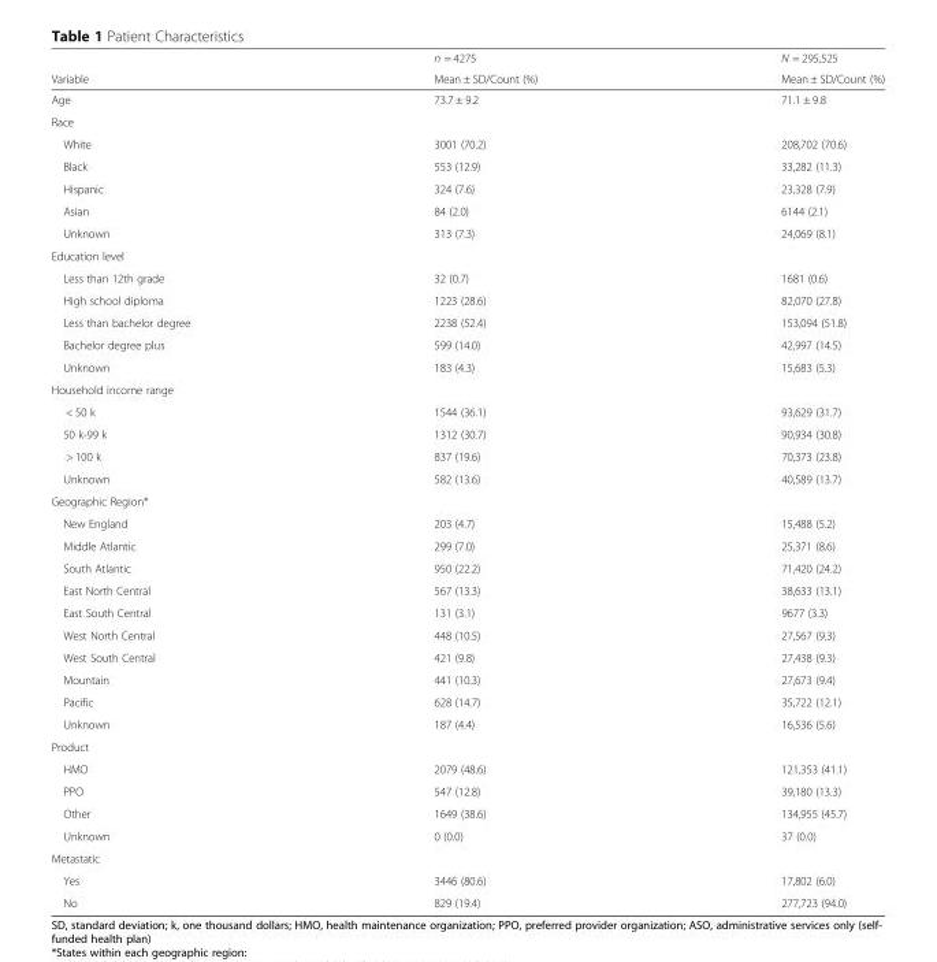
<table><thead><tr><td rowspan="2">Variable</td><td rowspan="2">n = 4275 Mean ± SD/Count (%)</td><td rowspan="2">N = 295,525 Mean ± SD/Count (%)</td></tr><tr></tr></thead><tbody><tr><td>Age</td><td>73.7 ± 9.2</td><td>71.1 ± 9.8</td></tr><tr><td colspan="3">Race</td></tr><tr><td>White</td><td>3001 (70.2)</td><td>208,702 (70.6)</td></tr><tr><td>Black</td><td>553 (12.9)</td><td>33,282 (11.3)</td></tr><tr><td>Hispanic</td><td>324 (7.6)</td><td>23,328 (7.9)</td></tr><tr><td>Asian</td><td>84 (2.0)</td><td>6144 (2.1)</td></tr><tr><td>Unknown</td><td>313 (7.3)</td><td>24,069 (8.1)</td></tr><tr><td colspan="3">Education level</td></tr><tr><td>Less than 12th grade</td><td>32 (0.7)</td><td>1681 (0.6)</td></tr><tr><td>High school diploma</td><td>1223 (28.6)</td><td>82,070 (27.8)</td></tr><tr><td>Less than bachelor degree</td><td>2238 (52.4)</td><td>153,094 (51.8)</td></tr><tr><td>Bachelor degree plus</td><td>599 (14.0)</td><td>42,997 (14.5)</td></tr><tr><td>Unknown</td><td>183 (4.3)</td><td>15,683 (5.3)</td></tr><tr><td colspan="3">Household income range</td></tr><tr><td>&lt; 50 k</td><td>1544 (36.1)</td><td>93,629 (31.7)</td></tr><tr><td>50 k-99 k</td><td>1312 (30.7)</td><td>90,934 (30.8)</td></tr><tr><td>&gt; 100 k</td><td>837 (19.6)</td><td>70,373 (23.8)</td></tr><tr><td>Unknown</td><td>582 (13.6)</td><td>40,589 (13.7)</td></tr><tr><td colspan="3">Geographic Region*</td></tr><tr><td>New England</td><td>203 (4.7)</td><td>15,488 (5.2)</td></tr><tr><td>Middle Atlantic</td><td>299 (7.0)</td><td>25,371 (8.6)</td></tr><tr><td>South Atlantic</td><td>950 (22.2)</td><td>71,420 (24.2)</td></tr><tr><td>East North Central</td><td>567 (13.3)</td><td>38,633 (13.1)</td></tr><tr><td>East South Central</td><td>131 (3.1)</td><td>9677 (3.3)</td></tr><tr><td>West North Central</td><td>448 (10.5)</td><td>27,567 (9.3)</td></tr><tr><td>West South Central</td><td>421 (9.8)</td><td>27,438 (9.3)</td></tr><tr><td>Mountain</td><td>441 (10.3)</td><td>27,673 (9.4)</td></tr><tr><td>Pacific</td><td>628 (14.7)</td><td>35,722 (12.1)</td></tr><tr><td>Unknown</td><td>187 (4.4)</td><td>16,536 (5.6)</td></tr><tr><td colspan="3">Product</td></tr><tr><td>HMO</td><td>2079 (48.6)</td><td>121,353 (41.1)</td></tr><tr><td>PPO</td><td>547 (12.8)</td><td>39,180 (13.3)</td></tr><tr><td>Other</td><td>1649 (38.6)</td><td>134,955 (45.7)</td></tr><tr><td>Unknown</td><td>0 (0.0)</td><td>37 (0.0)</td></tr><tr><td colspan="3">Metastatic</td></tr><tr><td>Yes</td><td>3446 (80.6)</td><td>17,802 (6.0)</td></tr><tr><td>No</td><td>829 (19.4)</td><td>277,723 (94.0)</td></tr></tbody></table>